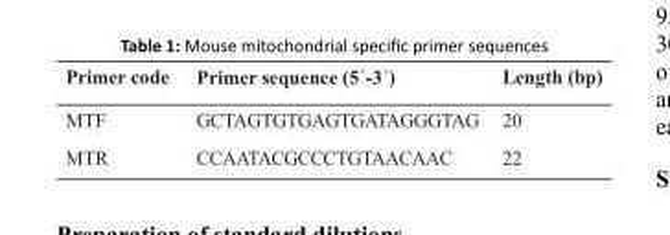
<table><thead><tr><td>Primer code</td><td>Primer sequence (5´-3´)</td><td>Length (bp)</td></tr></thead><tbody><tr><td>MTF</td><td>GCTAGTGTGAGTGATAGGGTAG</td><td>20</td></tr><tr><td>MTR</td><td>CCAATACGCCCTGTAACAAC</td><td>22</td></tr></tbody></table>